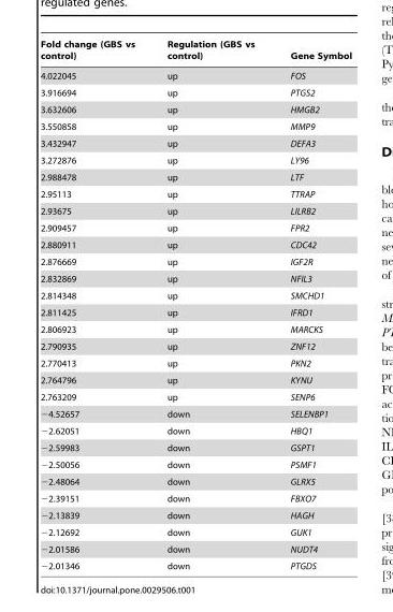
<table><thead><tr><td>Fold change (GBS vs control)</td><td>Regulation (GBS vs control)</td><td>Gene Symbol</td></tr></thead><tbody><tr><td>4.022045</td><td>up</td><td>FOS</td></tr><tr><td>3.916694</td><td>up</td><td>PTGS2</td></tr><tr><td>3.632606</td><td>up</td><td>HMGB2</td></tr><tr><td>3.550858</td><td>up</td><td>MMP9</td></tr><tr><td>3.432947</td><td>up</td><td>DEFA3</td></tr><tr><td>3.272876</td><td>up</td><td>LY96</td></tr><tr><td>2.988478</td><td>up</td><td>LTF</td></tr><tr><td>2.95113</td><td>up</td><td>TTRAP</td></tr><tr><td>2.93675</td><td>up</td><td>LILRB2</td></tr><tr><td>2.909457</td><td>up</td><td>FPR2</td></tr><tr><td>2.880911</td><td>up</td><td>CDC42</td></tr><tr><td>2.876669</td><td>up</td><td>IGF2R</td></tr><tr><td>2.832869</td><td>up</td><td>NFIL3</td></tr><tr><td>2.814348</td><td>up</td><td>SMCHD1</td></tr><tr><td>2.811425</td><td>up</td><td>IFRD1</td></tr><tr><td>2.806923</td><td>up</td><td>MARCKS</td></tr><tr><td>2.790935</td><td>up</td><td>ZNF12</td></tr><tr><td>2.770413</td><td>up</td><td>PKN2</td></tr><tr><td>2.764796</td><td>up</td><td>KYNU</td></tr><tr><td>2.763209</td><td>up</td><td>SENP6</td></tr><tr><td>−4.52657</td><td>down</td><td>SELENBP1</td></tr><tr><td>−2.62051</td><td>down</td><td>HBQ1</td></tr><tr><td>−2.59983</td><td>down</td><td>GSPT1</td></tr><tr><td>−2.50056</td><td>down</td><td>PSMF1</td></tr><tr><td>−2.48064</td><td>down</td><td>GLRX5</td></tr><tr><td>−2.39151</td><td>down</td><td>FBXO7</td></tr><tr><td>−2.13839</td><td>down</td><td>HAGH</td></tr><tr><td>−2.12692</td><td>down</td><td>GUK1</td></tr><tr><td>−2.01586</td><td>down</td><td>NUDT4</td></tr><tr><td>−2.01346</td><td>down</td><td>PTGDS</td></tr></tbody></table>